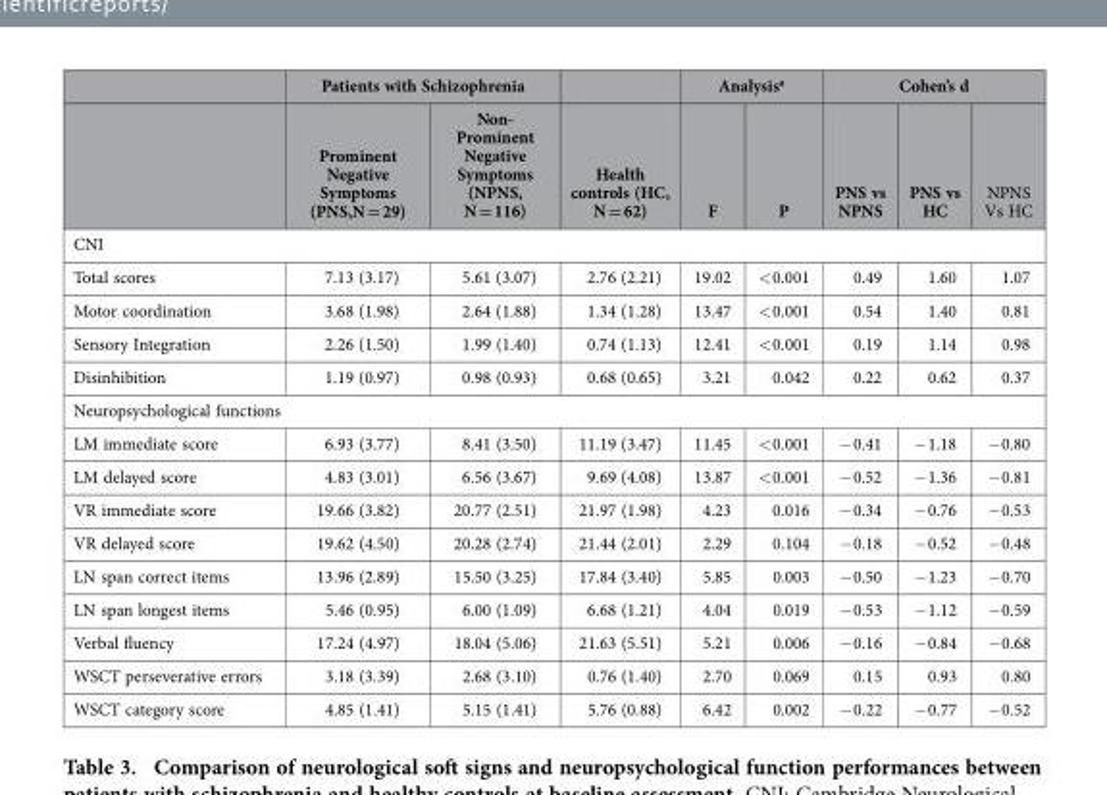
<table><thead><tr><td rowspan="2"></td><td colspan="2">Patients with Schizophrenia</td><td rowspan="2">Health controls (HC, N = 62)</td><td colspan="2">Analysis<sup>a</sup></td><td colspan="3">Cohen’s d</td></tr><tr><td>Prominent Negative Symptoms (PNS,N = 29)</td><td>Non- Prominent Negative Symptoms (NPNS, N = 116)</td><td>F</td><td>P</td><td>PNS vs NPNS</td><td>PNS vs HC</td><td>NPNS Vs HC</td></tr></thead><tbody><tr><td colspan="9">CNI</td></tr><tr><td>Total scores</td><td>7.13 (3.17)</td><td>5.61 (3.07)</td><td>2.76 (2.21)</td><td>19.02</td><td>&lt; 0.001</td><td>0.49</td><td>1.60</td><td>1.07</td></tr><tr><td>Motor coordination</td><td>3.68 (1.98)</td><td>2.64 (1.88)</td><td>1.34 (1.28)</td><td>13.47</td><td>&lt; 0.001</td><td>0.54</td><td>1.40</td><td>0.81</td></tr><tr><td>Sensory Integration</td><td>2.26 (1.50)</td><td>1.99 (1.40)</td><td>0.74 (1.13)</td><td>12.41</td><td>&lt; 0.001</td><td>0.19</td><td>1.14</td><td>0.98</td></tr><tr><td>Disinhibition</td><td>1.19 (0.97)</td><td>0.98 (0.93)</td><td>0.68 (0.65)</td><td>3.21</td><td>0.042</td><td>0.22</td><td>0.62</td><td>0.37</td></tr><tr><td colspan="9">Neuropsychological functions</td></tr><tr><td>LM immediate score</td><td>6.93 (3.77)</td><td>8.41 (3.50)</td><td>11.19 (3.47)</td><td>11.45</td><td>&lt; 0.001</td><td>− 0.41</td><td>− 1.18</td><td>− 0.80</td></tr><tr><td>LM delayed score</td><td>4.83 (3.01)</td><td>6.56 (3.67)</td><td>9.69 (4.08)</td><td>13.87</td><td>&lt; 0.001</td><td>− 0.52</td><td>− 1.36</td><td>− 0.81</td></tr><tr><td>VR immediate score</td><td>19.66 (3.82)</td><td>20.77 (2.51)</td><td>21.97 (1.98)</td><td>4.23</td><td>0.016</td><td>− 0.34</td><td>− 0.76</td><td>− 0.53</td></tr><tr><td>VR delayed score</td><td>19.62 (4.50)</td><td>20.28 (2.74)</td><td>21.44 (2.01)</td><td>2.29</td><td>0.104</td><td>− 0.18</td><td>− 0.52</td><td>− 0.48</td></tr><tr><td>LN span correct items</td><td>13.96 (2.89)</td><td>15.50 (3.25)</td><td>17.84 (3.40)</td><td>5.85</td><td>0.003</td><td>− 0.50</td><td>− 1.23</td><td>− 0.70</td></tr><tr><td>LN span longest items</td><td>5.46 (0.95)</td><td>6.00 (1.09)</td><td>6.68 (1.21)</td><td>4.04</td><td>0.019</td><td>− 0.53</td><td>− 1.12</td><td>− 0.59</td></tr><tr><td>Verbal fluency</td><td>17.24 (4.97)</td><td>18.04 (5.06)</td><td>21.63 (5.51)</td><td>5.21</td><td>0.006</td><td>− 0.16</td><td>− 0.84</td><td>− 0.68</td></tr><tr><td>WSCT perseverative errors</td><td>3.18 (3.39)</td><td>2.68 (3.10)</td><td>0.76 (1.40)</td><td>2.70</td><td>0.069</td><td>0.15</td><td>0.93</td><td>0.80</td></tr><tr><td>WSCT category score</td><td>4.85 (1.41)</td><td>5.15 (1.41)</td><td>5.76 (0.88)</td><td>6.42</td><td>0.002</td><td>− 0.22</td><td>− 0.77</td><td>− 0.52</td></tr></tbody></table>